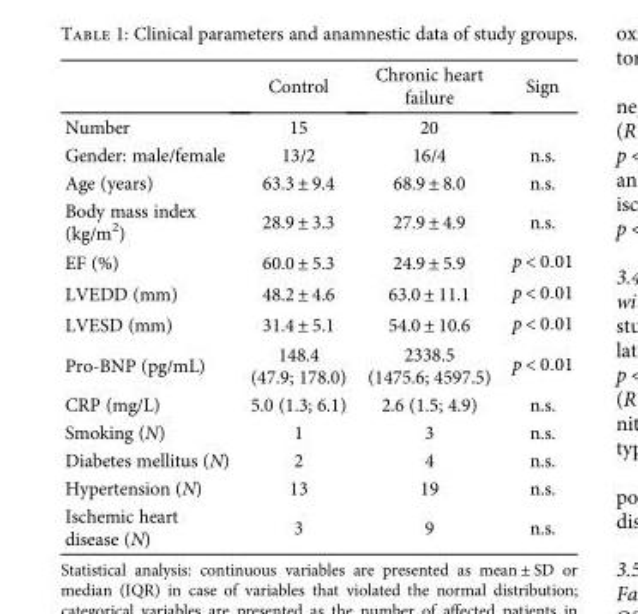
<table><thead><tr><td></td><td>Control</td><td>Chronic heart failure</td><td>Sign</td></tr></thead><tbody><tr><td>Number</td><td>15</td><td>20</td><td></td></tr><tr><td>Gender: male/female</td><td>13/2</td><td>16/4</td><td>n.s.</td></tr><tr><td>Age (years)</td><td>63.3 ± 9.4</td><td>68.9 ± 8.0</td><td>n.s.</td></tr><tr><td>Body mass index (kg/m<sup>2</sup>)</td><td>28.9 ± 3.3</td><td>27.9 ± 4.9</td><td>n.s.</td></tr><tr><td>EF (%)</td><td>60.0 ± 5.3</td><td>24.9 ± 5.9</td><td>p &lt; 0 01</td></tr><tr><td>LVEDD (mm)</td><td>48.2 ± 4.6</td><td>63.0 ± 11.1</td><td>p &lt; 0 01</td></tr><tr><td>LVESD (mm)</td><td>31.4 ± 5.1</td><td>54.0 ± 10.6</td><td>p &lt; 0 01</td></tr><tr><td>Pro-BNP (pg/mL)</td><td>148.4 (47.9; 178.0)</td><td>2338.5 (1475.6; 4597.5)</td><td>p &lt; 0 01</td></tr><tr><td>CRP (mg/L)</td><td>5.0 (1.3; 6.1)</td><td>2.6 (1.5; 4.9)</td><td>n.s.</td></tr><tr><td>Smoking (N)</td><td>1</td><td>3</td><td>n.s.</td></tr><tr><td>Diabetes mellitus (N)</td><td>2</td><td>4</td><td>n.s.</td></tr><tr><td>Hypertension (N)</td><td>13</td><td>19</td><td>n.s.</td></tr><tr><td>Ischemic heart disease (N)</td><td>3</td><td>9</td><td>n.s.</td></tr></tbody></table>